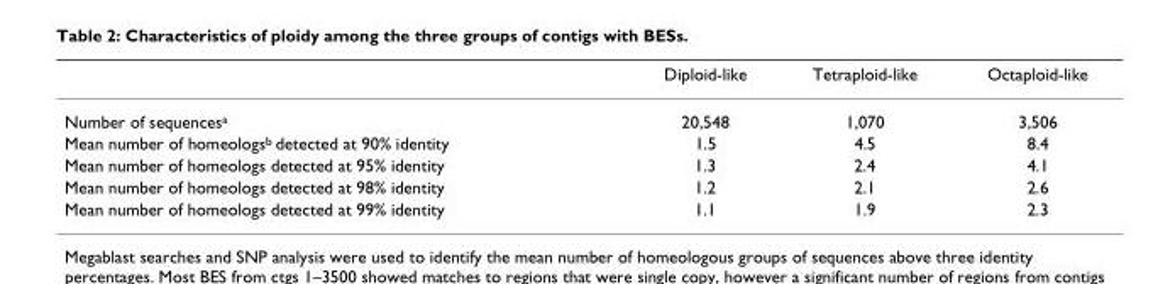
<table><thead><tr><td></td><td>Diploid-like</td><td>Tetraploid-like</td><td>Octaploid-like</td></tr></thead><tbody><tr><td>Number of sequences<sup>a</sup></td><td>20,548</td><td>1,070</td><td>3,506</td></tr><tr><td>Mean number of homeologs<sup>b</sup> detected at 90% identity</td><td>1.5</td><td>4.5</td><td>8.4</td></tr><tr><td>Mean number of homeologs detected at 95% identity</td><td>1.3</td><td>2.4</td><td>4.1</td></tr><tr><td>Mean number of homeologs detected at 98% identity</td><td>1.2</td><td>2.1</td><td>2.6</td></tr><tr><td>Mean number of homeologs detected at 99% identity</td><td>1.1</td><td>1.9</td><td>2.3</td></tr></tbody></table>